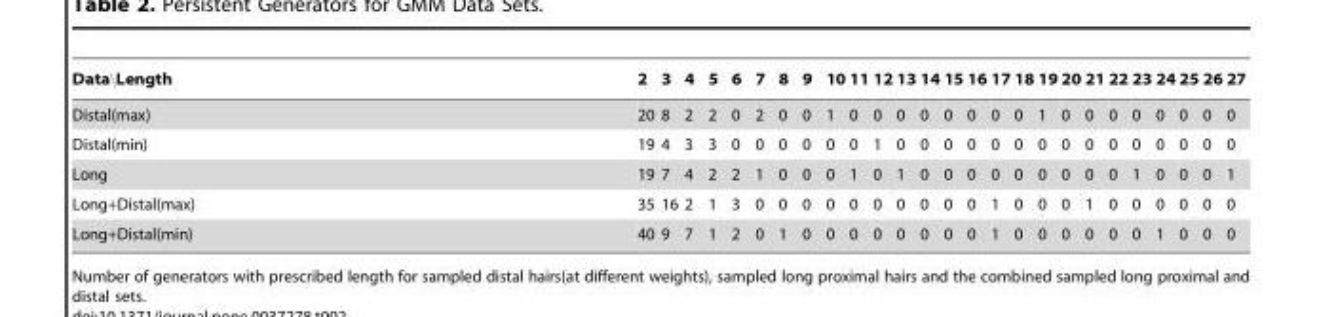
<table><thead><tr><td>Data\Length</td><td>2</td><td>3</td><td>4</td><td>5</td><td>6</td><td>7</td><td>8</td><td>9</td><td>10</td><td>11</td><td>12</td><td>13</td><td>14</td><td>15</td><td>16</td><td>17</td><td>18</td><td>19</td><td>20</td><td>21</td><td>22</td><td>23</td><td>24</td><td>25</td><td>26</td><td>27</td></tr></thead><tbody><tr><td>Distal(max)</td><td>20</td><td>8</td><td>2</td><td>2</td><td>0</td><td>2</td><td>0</td><td>0</td><td>1</td><td>0</td><td>0</td><td>0</td><td>0</td><td>0</td><td>0</td><td>0</td><td>0</td><td>1</td><td>0</td><td>0</td><td>0</td><td>0</td><td>0</td><td>0</td><td>0</td><td>0</td></tr><tr><td>Distal(min)</td><td>19</td><td>4</td><td>3</td><td>3</td><td>0</td><td>0</td><td>0</td><td>0</td><td>0</td><td>0</td><td>1</td><td>0</td><td>0</td><td>0</td><td>0</td><td>0</td><td>0</td><td>0</td><td>0</td><td>0</td><td>0</td><td>0</td><td>0</td><td>0</td><td>0</td><td>0</td></tr><tr><td>Long</td><td>19</td><td>7</td><td>4</td><td>2</td><td>2</td><td>1</td><td>0</td><td>0</td><td>0</td><td>1</td><td>0</td><td>1</td><td>0</td><td>0</td><td>0</td><td>0</td><td>0</td><td>0</td><td>0</td><td>0</td><td>0</td><td>1</td><td>0</td><td>0</td><td>0</td><td>1</td></tr><tr><td>Long+Distal(max)</td><td>35</td><td>16</td><td>2</td><td>1</td><td>3</td><td>0</td><td>0</td><td>0</td><td>0</td><td>0</td><td>0</td><td>0</td><td>0</td><td>0</td><td>0</td><td>1</td><td>0</td><td>0</td><td>0</td><td>1</td><td>0</td><td>0</td><td>0</td><td>0</td><td>0</td><td>0</td></tr><tr><td>Long+Distal(min)</td><td>40</td><td>9</td><td>7</td><td>1</td><td>2</td><td>0</td><td>1</td><td>0</td><td>0</td><td>0</td><td>0</td><td>0</td><td>0</td><td>0</td><td>0</td><td>1</td><td>0</td><td>0</td><td>0</td><td>0</td><td>0</td><td>0</td><td>1</td><td>0</td><td>0</td><td>0</td></tr></tbody></table>